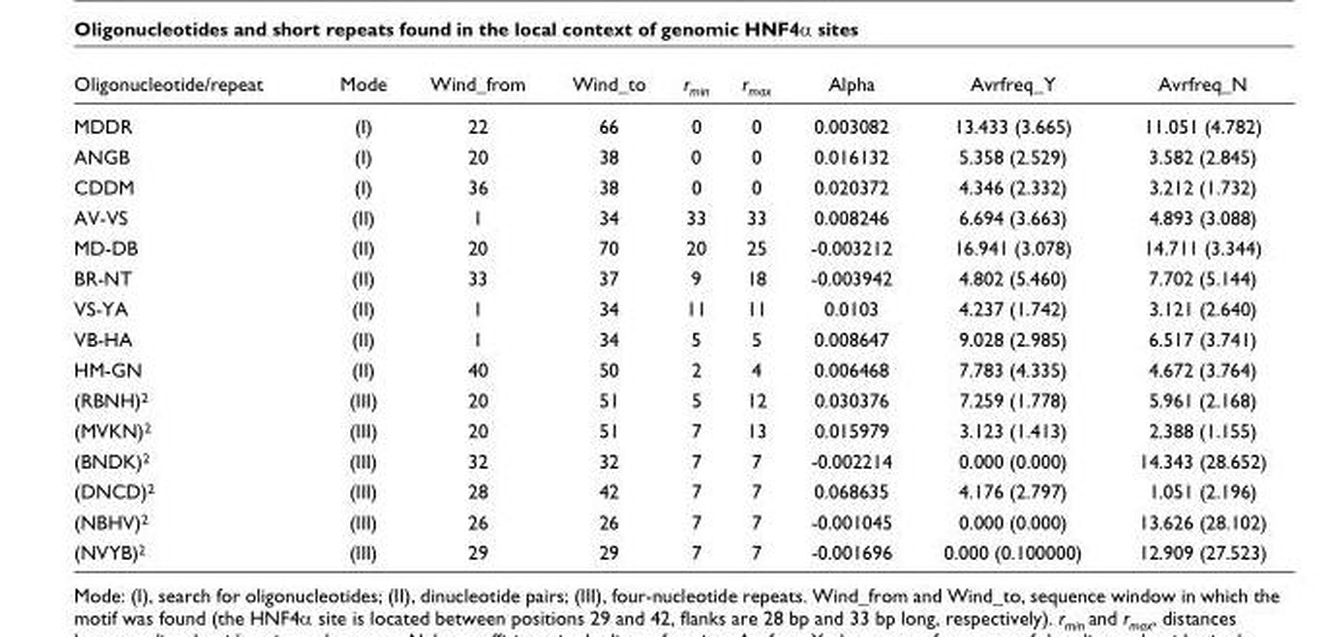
<table><thead><tr><td>Oligonucleotide/repeat</td><td>Mode</td><td>Wind_from</td><td>Wind_to</td><td>r<sub>min</sub></td><td>r<sub>max</sub></td><td>Alpha</td><td>Avrfreq_Y</td><td>Avrfreq_N</td></tr></thead><tbody><tr><td>MDDR</td><td>(I)</td><td>22</td><td>66</td><td>0</td><td>0</td><td>0.003082</td><td>13.433 (3.665)</td><td>11.051 (4.782)</td></tr><tr><td>ANGB</td><td>(I)</td><td>20</td><td>38</td><td>0</td><td>0</td><td>0.016132</td><td>5.358 (2.529)</td><td>3.582 (2.845)</td></tr><tr><td>CDDM</td><td>(I)</td><td>36</td><td>38</td><td>0</td><td>0</td><td>0.020372</td><td>4.346 (2.332)</td><td>3.212 (1.732)</td></tr><tr><td>AV-VS</td><td>(II)</td><td>1</td><td>34</td><td>33</td><td>33</td><td>0.008246</td><td>6.694 (3.663)</td><td>4.893 (3.088)</td></tr><tr><td>MD-DB</td><td>(II)</td><td>20</td><td>70</td><td>20</td><td>25</td><td>-0.003212</td><td>16.941 (3.078)</td><td>14.711 (3.344)</td></tr><tr><td>BR-NT</td><td>(II)</td><td>33</td><td>37</td><td>9</td><td>18</td><td>-0.003942</td><td>4.802 (5.460)</td><td>7.702 (5.144)</td></tr><tr><td>VS-YA</td><td>(II)</td><td>1</td><td>34</td><td>11</td><td>11</td><td>0.0103</td><td>4.237 (1.742)</td><td>3.121 (2.640)</td></tr><tr><td>VB-HA</td><td>(II)</td><td>1</td><td>34</td><td>5</td><td>5</td><td>0.008647</td><td>9.028 (2.985)</td><td>6.517 (3.741)</td></tr><tr><td>HM-GN</td><td>(II)</td><td>40</td><td>50</td><td>2</td><td>4</td><td>0.006468</td><td>7.783 (4.335)</td><td>4.672 (3.764)</td></tr><tr><td>(RBNH)<sup>2</sup></td><td>(III)</td><td>20</td><td>51</td><td>5</td><td>12</td><td>0.030376</td><td>7.259 (1.778)</td><td>5.961 (2.168)</td></tr><tr><td>(MVKN)<sup>2</sup></td><td>(III)</td><td>20</td><td>51</td><td>7</td><td>13</td><td>0.015979</td><td>3.123 (1.413)</td><td>2.388 (1.155)</td></tr><tr><td>(BNDK)<sup>2</sup></td><td>(III)</td><td>32</td><td>32</td><td>7</td><td>7</td><td>-0.002214</td><td>0.000 (0.000)</td><td>14.343 (28.652)</td></tr><tr><td>(DNCD)<sup>2</sup></td><td>(III)</td><td>28</td><td>42</td><td>7</td><td>7</td><td>0.068635</td><td>4.176 (2.797)</td><td>1.051 (2.196)</td></tr><tr><td>(NBHV)<sup>2</sup></td><td>(III)</td><td>26</td><td>26</td><td>7</td><td>7</td><td>-0.001045</td><td>0.000 (0.000)</td><td>13.626 (28.102)</td></tr><tr><td>(NVYB)<sup>2</sup></td><td>(III)</td><td>29</td><td>29</td><td>7</td><td>7</td><td>-0.001696</td><td>0.000 (0.100000)</td><td>12.909 (27.523)</td></tr></tbody></table>